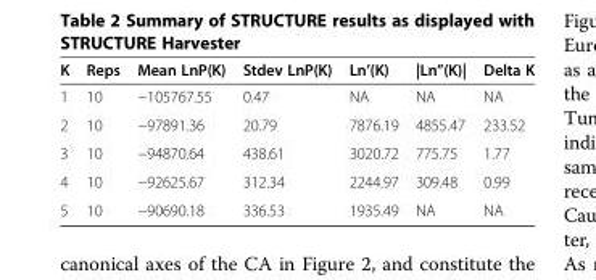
<table><thead><tr><td>K</td><td>Reps</td><td>Mean LnP(K)</td><td>Stdev LnP(K)</td><td>Ln’(K)</td><td>|Ln”(K)|</td><td>Delta K</td></tr></thead><tbody><tr><td>1</td><td>10</td><td>−105767.55</td><td>0.47</td><td>NA</td><td>NA</td><td>NA</td></tr><tr><td>2</td><td>10</td><td>−97891.36</td><td>20.79</td><td>7876.19</td><td>4855.47</td><td>233.52</td></tr><tr><td>3</td><td>10</td><td>−94870.64</td><td>438.61</td><td>3020.72</td><td>775.75</td><td>1.77</td></tr><tr><td>4</td><td>10</td><td>−92625.67</td><td>312.34</td><td>2244.97</td><td>309.48</td><td>0.99</td></tr><tr><td>5</td><td>10</td><td>−90690.18</td><td>336.53</td><td>1935.49</td><td>NA</td><td>NA</td></tr></tbody></table>